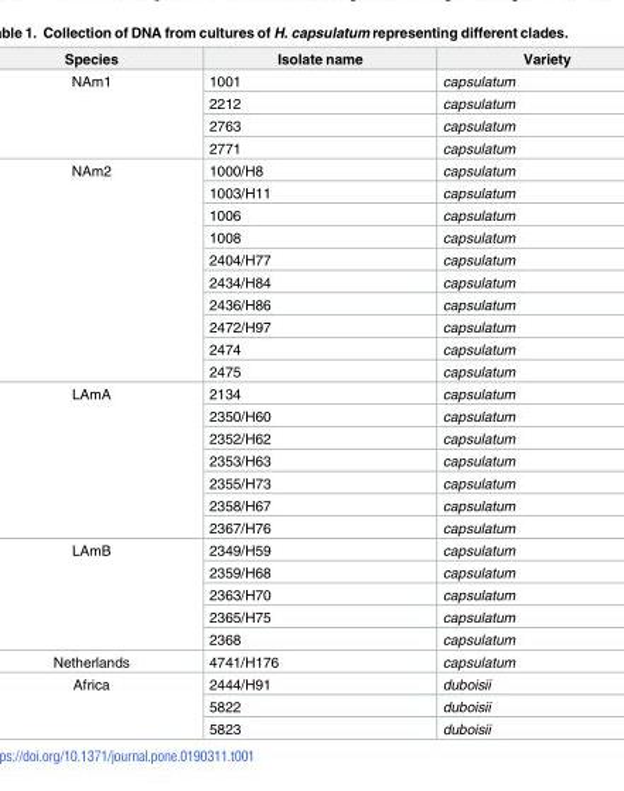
<table><thead><tr><td>Species</td><td>Isolate name</td><td>Variety</td></tr></thead><tbody><tr><td rowspan="4">NAm1</td><td>1001</td><td>capsulatum</td></tr><tr><td>2212</td><td>capsulatum</td></tr><tr><td>2763</td><td>capsulatum</td></tr><tr><td>2771</td><td>capsulatum</td></tr><tr><td rowspan="10">NAm2</td><td>1000/H8</td><td>capsulatum</td></tr><tr><td>1003/H11</td><td>capsulatum</td></tr><tr><td>1006</td><td>capsulatum</td></tr><tr><td>1008</td><td>capsulatum</td></tr><tr><td>2404/H77</td><td>capsulatum</td></tr><tr><td>2434/H84</td><td>capsulatum</td></tr><tr><td>2436/H86</td><td>capsulatum</td></tr><tr><td>2472/H97</td><td>capsulatum</td></tr><tr><td>2474</td><td>capsulatum</td></tr><tr><td>2475</td><td>capsulatum</td></tr><tr><td rowspan="7">LAmA</td><td>2134</td><td>capsulatum</td></tr><tr><td>2350/H60</td><td>capsulatum</td></tr><tr><td>2352/H62</td><td>capsulatum</td></tr><tr><td>2353/H63</td><td>capsulatum</td></tr><tr><td>2355/H73</td><td>capsulatum</td></tr><tr><td>2358/H67</td><td>capsulatum</td></tr><tr><td>2367/H76</td><td>capsulatum</td></tr><tr><td rowspan="5">LAmB</td><td>2349/H59</td><td>capsulatum</td></tr><tr><td>2359/H68</td><td>capsulatum</td></tr><tr><td>2363/H70</td><td>capsulatum</td></tr><tr><td>2365/H75</td><td>capsulatum</td></tr><tr><td>2368</td><td>capsulatum</td></tr><tr><td>Netherlands</td><td>4741/H176</td><td>capsulatum</td></tr><tr><td rowspan="3">Africa</td><td>2444/H91</td><td>duboisii</td></tr><tr><td>5822</td><td>duboisii</td></tr><tr><td>5823</td><td>duboisii</td></tr></tbody></table>